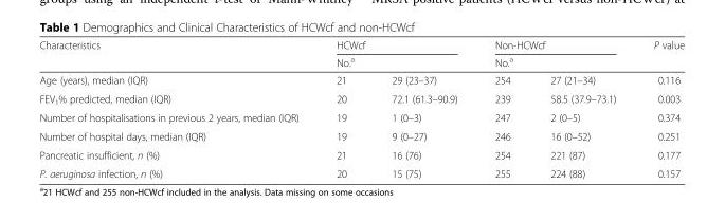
<table><thead><tr><td rowspan="2">Characteristics</td><td colspan="2">HCWcf</td><td colspan="2">Non-HCWcf</td><td rowspan="2">P value</td></tr><tr><td>No.<sup>a</sup></td><td></td><td>No.<sup>a</sup></td><td></td></tr></thead><tbody><tr><td>Age (years), median (IQR)</td><td>21</td><td>29 (23–37)</td><td>254</td><td>27 (21–34)</td><td>0.116</td></tr><tr><td>FEV<sub>1</sub>% predicted, median (IQR)</td><td>20</td><td>72.1 (61.3–90.9)</td><td>239</td><td>58.5 (37.9–73.1)</td><td>0.003</td></tr><tr><td>Number of hospitalisations in previous 2 years, median (IQR)</td><td>19</td><td>1 (0–3)</td><td>247</td><td>2 (0–5)</td><td>0.374</td></tr><tr><td>Number of hospital days, median (IQR)</td><td>19</td><td>9 (0–27)</td><td>246</td><td>16 (0–52)</td><td>0.251</td></tr><tr><td>Pancreatic insufficient, n (%)</td><td>21</td><td>16 (76)</td><td>254</td><td>221 (87)</td><td>0.177</td></tr><tr><td>P. aeruginosa infection, n (%)</td><td>20</td><td>15 (75)</td><td>255</td><td>224 (88)</td><td>0.157</td></tr></tbody></table>